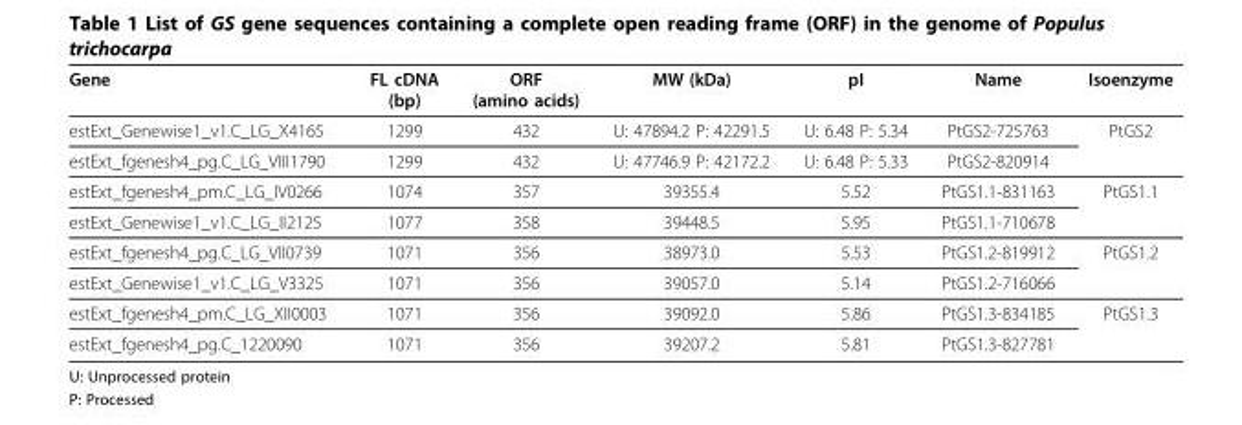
<table><thead><tr><td>Gene</td><td>FL cDNA (bp)</td><td>ORF (amino acids)</td><td>MW (kDa)</td><td>pI</td><td>Name</td><td>Isoenzyme</td></tr></thead><tbody><tr><td>estExt_Genewise1_v1.C_LG_X4165</td><td>1299</td><td>432</td><td>U: 47894.2 P: 42291.5</td><td>U: 6.48 P: 5.34</td><td>PtGS2-725763</td><td>PtGS2</td></tr><tr><td>estExt_fgenesh4_pg.C_LG_VIII1790</td><td>1299</td><td>432</td><td>U: 47746.9 P: 42172.2</td><td>U: 6.48 P: 5.33</td><td>PtGS2-820914</td><td></td></tr><tr><td>estExt_fgenesh4_pm.C_LG_IV0266</td><td>1074</td><td>357</td><td>39355.4</td><td>5.52</td><td>PtGS1.1-831163</td><td>PtGS1.1</td></tr><tr><td>estExt_Genewise1_v1.C_LG_II2125</td><td>1077</td><td>358</td><td>39448.5</td><td>5.95</td><td>PtGS1.1-710678</td><td></td></tr><tr><td>estExt_fgenesh4_pg.C_LG_VII0739</td><td>1071</td><td>356</td><td>38973.0</td><td>5.53</td><td>PtGS1.2-819912</td><td>PtGS1.2</td></tr><tr><td>estExt_Genewise1_v1.C_LG_V3325</td><td>1071</td><td>356</td><td>39057.0</td><td>5.14</td><td>PtGS1.2-716066</td><td></td></tr><tr><td>estExt_fgenesh4_pm.C_LG_XII0003</td><td>1071</td><td>356</td><td>39092.0</td><td>5.86</td><td>PtGS1.3-834185</td><td>PtGS1.3</td></tr><tr><td>estExt_fgenesh4_pg.C_1220090</td><td>1071</td><td>356</td><td>39207.2</td><td>5.81</td><td>PtGS1.3-827781</td><td></td></tr></tbody></table>